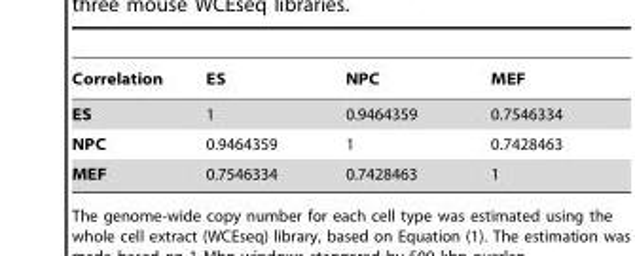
<table><thead><tr><td>Correlation</td><td>ES</td><td>NPC</td><td>MEF</td></tr></thead><tbody><tr><td>ES</td><td>1</td><td>0.9464359</td><td>0.7546334</td></tr><tr><td>NPC</td><td>0.9464359</td><td>1</td><td>0.7428463</td></tr><tr><td>MEF</td><td>0.7546334</td><td>0.7428463</td><td>1</td></tr></tbody></table>